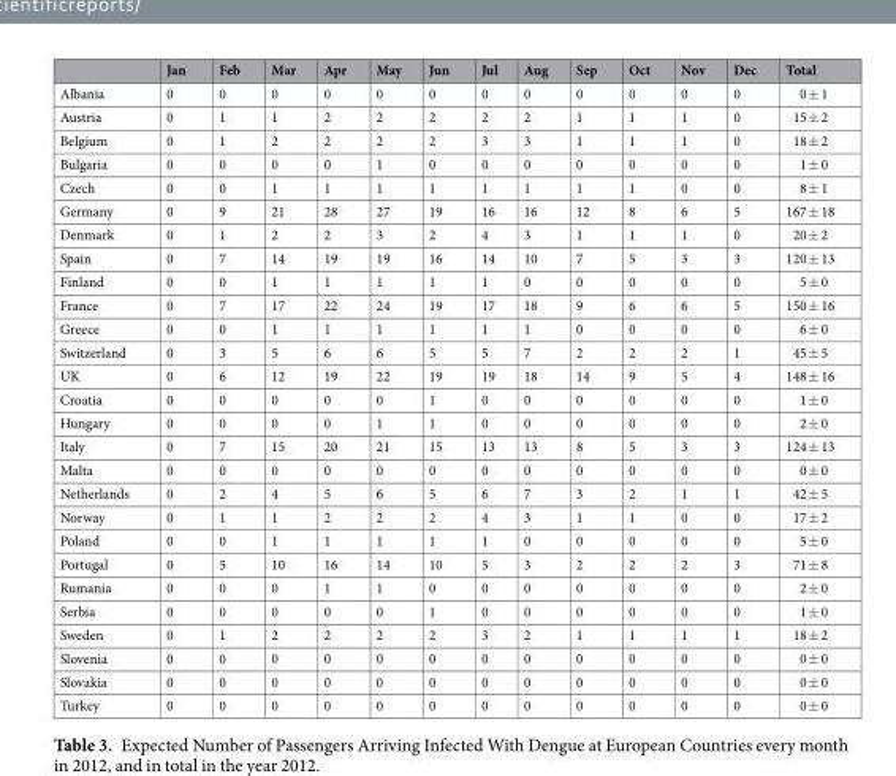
<table><thead><tr><td></td><td>Jan</td><td>Feb</td><td>Mar</td><td>Apr</td><td>May</td><td>Jun</td><td>Jul</td><td>Aug</td><td>Sep</td><td>Oct</td><td>Nov</td><td>Dec</td><td>Total</td></tr></thead><tbody><tr><td>Albania</td><td>0</td><td>0</td><td>0</td><td>0</td><td>0</td><td>0</td><td>0</td><td>0</td><td>0</td><td>0</td><td>0</td><td>0</td><td>0 ± 1</td></tr><tr><td>Austria</td><td>0</td><td>1</td><td>1</td><td>2</td><td>2</td><td>2</td><td>2</td><td>2</td><td>1</td><td>1</td><td>1</td><td>0</td><td>15 ± 2</td></tr><tr><td>Belgium</td><td>0</td><td>1</td><td>2</td><td>2</td><td>2</td><td>2</td><td>3</td><td>3</td><td>1</td><td>1</td><td>1</td><td>0</td><td>18 ± 2</td></tr><tr><td>Bulgaria</td><td>0</td><td>0</td><td>0</td><td>0</td><td>1</td><td>0</td><td>0</td><td>0</td><td>0</td><td>0</td><td>0</td><td>0</td><td>1 ± 0</td></tr><tr><td>Czech</td><td>0</td><td>0</td><td>1</td><td>1</td><td>1</td><td>1</td><td>1</td><td>1</td><td>1</td><td>1</td><td>0</td><td>0</td><td>8 ± 1</td></tr><tr><td>Germany</td><td>0</td><td>9</td><td>21</td><td>28</td><td>27</td><td>19</td><td>16</td><td>16</td><td>12</td><td>8</td><td>6</td><td>5</td><td>167 ± 18</td></tr><tr><td>Denmark</td><td>0</td><td>1</td><td>2</td><td>2</td><td>3</td><td>2</td><td>4</td><td>3</td><td>1</td><td>1</td><td>1</td><td>0</td><td>20 ± 2</td></tr><tr><td>Spain</td><td>0</td><td>7</td><td>14</td><td>19</td><td>19</td><td>16</td><td>14</td><td>10</td><td>7</td><td>5</td><td>3</td><td>3</td><td>120 ± 13</td></tr><tr><td>Finland</td><td>0</td><td>0</td><td>1</td><td>1</td><td>1</td><td>1</td><td>1</td><td>0</td><td>0</td><td>0</td><td>0</td><td>0</td><td>5 ± 0</td></tr><tr><td>France</td><td>0</td><td>7</td><td>17</td><td>22</td><td>24</td><td>19</td><td>17</td><td>18</td><td>9</td><td>6</td><td>6</td><td>5</td><td>150 ± 16</td></tr><tr><td>Greece</td><td>0</td><td>0</td><td>1</td><td>1</td><td>1</td><td>1</td><td>1</td><td>1</td><td>0</td><td>0</td><td>0</td><td>0</td><td>6 ± 0</td></tr><tr><td>Switzerland</td><td>0</td><td>3</td><td>5</td><td>6</td><td>6</td><td>5</td><td>5</td><td>7</td><td>2</td><td>2</td><td>2</td><td>1</td><td>45 ± 5</td></tr><tr><td>UK</td><td>0</td><td>6</td><td>12</td><td>19</td><td>22</td><td>19</td><td>19</td><td>18</td><td>14</td><td>9</td><td>5</td><td>4</td><td>148 ± 16</td></tr><tr><td>Croatia</td><td>0</td><td>0</td><td>0</td><td>0</td><td>0</td><td>1</td><td>0</td><td>0</td><td>0</td><td>0</td><td>0</td><td>0</td><td>1 ± 0</td></tr><tr><td>Hungary</td><td>0</td><td>0</td><td>0</td><td>0</td><td>1</td><td>1</td><td>0</td><td>0</td><td>0</td><td>0</td><td>0</td><td>0</td><td>2 ± 0</td></tr><tr><td>Italy</td><td>0</td><td>7</td><td>15</td><td>20</td><td>21</td><td>15</td><td>13</td><td>13</td><td>8</td><td>5</td><td>3</td><td>3</td><td>124 ± 13</td></tr><tr><td>Malta</td><td>0</td><td>0</td><td>0</td><td>0</td><td>0</td><td>0</td><td>0</td><td>0</td><td>0</td><td>0</td><td>0</td><td>0</td><td>0 ± 0</td></tr><tr><td>Netherlands</td><td>0</td><td>2</td><td>4</td><td>5</td><td>6</td><td>5</td><td>6</td><td>7</td><td>3</td><td>2</td><td>1</td><td>1</td><td>42 ± 5</td></tr><tr><td>Norway</td><td>0</td><td>1</td><td>1</td><td>2</td><td>2</td><td>2</td><td>4</td><td>3</td><td>1</td><td>1</td><td>0</td><td>0</td><td>17 ± 2</td></tr><tr><td>Poland</td><td>0</td><td>0</td><td>1</td><td>1</td><td>1</td><td>1</td><td>1</td><td>0</td><td>0</td><td>0</td><td>0</td><td>0</td><td>5 ± 0</td></tr><tr><td>Portugal</td><td>0</td><td>5</td><td>10</td><td>16</td><td>14</td><td>10</td><td>5</td><td>3</td><td>2</td><td>2</td><td>2</td><td>3</td><td>71 ± 8</td></tr><tr><td>Rumania</td><td>0</td><td>0</td><td>0</td><td>1</td><td>1</td><td>0</td><td>0</td><td>0</td><td>0</td><td>0</td><td>0</td><td>0</td><td>2 ± 0</td></tr><tr><td>Serbia</td><td>0</td><td>0</td><td>0</td><td>0</td><td>0</td><td>1</td><td>0</td><td>0</td><td>0</td><td>0</td><td>0</td><td>0</td><td>1 ± 0</td></tr><tr><td>Sweden</td><td>0</td><td>1</td><td>2</td><td>2</td><td>2</td><td>2</td><td>3</td><td>2</td><td>1</td><td>1</td><td>1</td><td>1</td><td>18 ± 2</td></tr><tr><td>Slovenia</td><td>0</td><td>0</td><td>0</td><td>0</td><td>0</td><td>0</td><td>0</td><td>0</td><td>0</td><td>0</td><td>0</td><td>0</td><td>0 ± 0</td></tr><tr><td>Slovakia</td><td>0</td><td>0</td><td>0</td><td>0</td><td>0</td><td>0</td><td>0</td><td>0</td><td>0</td><td>0</td><td>0</td><td>0</td><td>0 ± 0</td></tr><tr><td>Turkey</td><td>0</td><td>0</td><td>0</td><td>0</td><td>0</td><td>0</td><td>0</td><td>0</td><td>0</td><td>0</td><td>0</td><td>0</td><td>0 ± 0</td></tr></tbody></table>